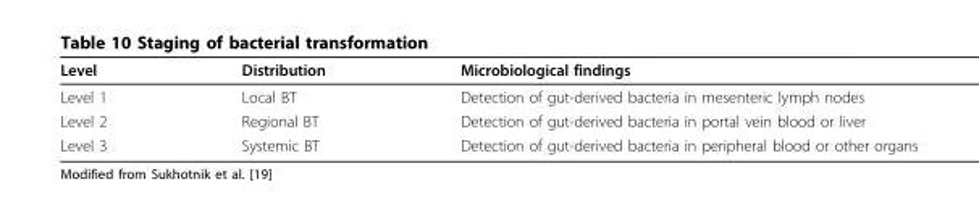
<table><thead><tr><td>Level</td><td>Distribution</td><td>Microbiological findings</td></tr></thead><tbody><tr><td>Level 1</td><td>Local BT</td><td>Detection of gut-derived bacteria in mesenteric lymph nodes</td></tr><tr><td>Level 2</td><td>Regional BT</td><td>Detection of gut-derived bacteria in portal vein blood or liver</td></tr><tr><td>Level 3</td><td>Systemic BT</td><td>Detection of gut-derived bacteria in peripheral blood or other organs</td></tr></tbody></table>